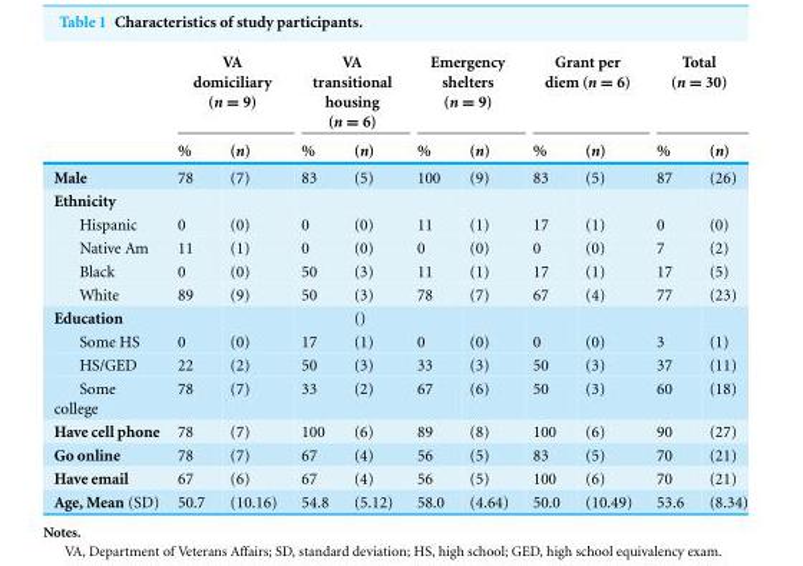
<table><thead><tr><td rowspan="2"></td><td colspan="2">VA domiciliary (n = 9)</td><td colspan="2">VA transitional housing (n = 6)</td><td colspan="2">Emergency shelters (n = 9)</td><td colspan="2">Grant per diem (n = 6)</td><td colspan="2">Total (n = 30)</td></tr><tr><td>%</td><td>(n)</td><td>%</td><td>(n)</td><td>%</td><td>(n)</td><td>%</td><td>(n)</td><td>%</td><td>(n)</td></tr></thead><tbody><tr><td>Male</td><td>78</td><td>(7)</td><td>83</td><td>(5)</td><td>100</td><td>(9)</td><td>83</td><td>(5)</td><td>87</td><td>(26)</td></tr><tr><td colspan="11">Ethnicity</td></tr><tr><td>Hispanic</td><td>0</td><td>(0)</td><td>0</td><td>(0)</td><td>11</td><td>(1)</td><td>17</td><td>(1)</td><td>0</td><td>(0)</td></tr><tr><td>Native Am</td><td>11</td><td>(1)</td><td>0</td><td>(0)</td><td>0</td><td>(0)</td><td>0</td><td>(0)</td><td>7</td><td>(2)</td></tr><tr><td>Black</td><td>0</td><td>(0)</td><td>50</td><td>(3)</td><td>11</td><td>(1)</td><td>17</td><td>(1)</td><td>17</td><td>(5)</td></tr><tr><td>White</td><td>89</td><td>(9)</td><td>50</td><td>(3)</td><td>78</td><td>(7)</td><td>67</td><td>(4)</td><td>77</td><td>(23)</td></tr><tr><td>Education</td><td></td><td></td><td></td><td>()</td><td></td><td></td><td></td><td></td><td></td><td></td></tr><tr><td>Some HS</td><td>0</td><td>(0)</td><td>17</td><td>(1)</td><td>0</td><td>(0)</td><td>0</td><td>(0)</td><td>3</td><td>(1)</td></tr><tr><td>HS/GED</td><td>22</td><td>(2)</td><td>50</td><td>(3)</td><td>33</td><td>(3)</td><td>50</td><td>(3)</td><td>37</td><td>(11)</td></tr><tr><td>Some college</td><td>78</td><td>(7)</td><td>33</td><td>(2)</td><td>67</td><td>(6)</td><td>50</td><td>(3)</td><td>60</td><td>(18)</td></tr><tr><td>Have cell phone</td><td>78</td><td>(7)</td><td>100</td><td>(6)</td><td>89</td><td>(8)</td><td>100</td><td>(6)</td><td>90</td><td>(27)</td></tr><tr><td>Go online</td><td>78</td><td>(7)</td><td>67</td><td>(4)</td><td>56</td><td>(5)</td><td>83</td><td>(5)</td><td>70</td><td>(21)</td></tr><tr><td>Have email</td><td>67</td><td>(6)</td><td>67</td><td>(4)</td><td>56</td><td>(5)</td><td>100</td><td>(6)</td><td>70</td><td>(21)</td></tr><tr><td>Age, Mean (SD)</td><td>50.7</td><td>(10.16)</td><td>54.8</td><td>(5.12)</td><td>58.0</td><td>(4.64)</td><td>50.0</td><td>(10.49)</td><td>53.6</td><td>(8.34)</td></tr></tbody></table>